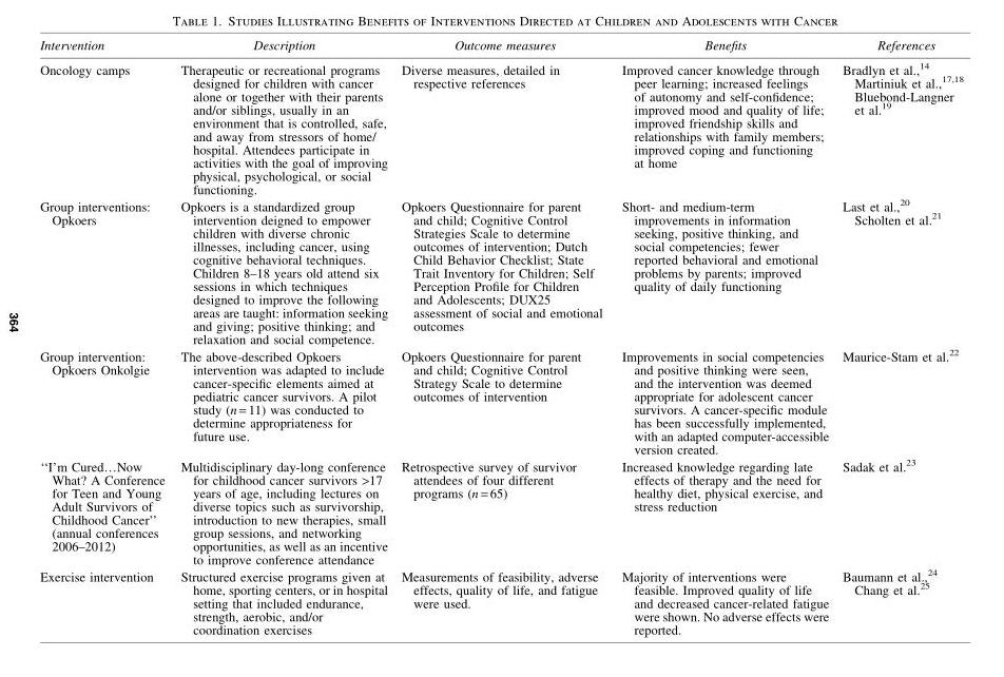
<table><thead><tr><td>Intervention</td><td>Description</td><td>Outcome measures</td><td>Benefits</td><td>References</td></tr></thead><tbody><tr><td>Oncology camps</td><td>Therapeutic or recreational programs designed for children with cancer alone or together with their parents and/or siblings, usually in an environment that is controlled, safe, and away from stressors of home/ hospital. Attendees participate in activities with the goal of improving physical, psychological, or social functioning.</td><td>Diverse measures, detailed in respective references</td><td>Improved cancer knowledge through peer learning; increased feelings of autonomy and self-confidence; improved mood and quality of life; improved friendship skills and relationships with family members; improved coping and functioning at home</td><td>Bradlyn et al.,<sup>14</sup> Martiniuk et al.,<sup>17,18</sup> Bluebond-Langner et al.<sup>19</sup></td></tr><tr><td>Group interventions: Opkoers</td><td>Opkoers is a standardized group intervention deigned to empower children with diverse chronic illnesses, including cancer, using cognitive behavioral techniques. Children 8–18 years old attend six sessions in which techniques designed to improve the following areas are taught: information seeking and giving; positive thinking; and relaxation and social competence.</td><td>Opkoers Questionnaire for parent and child; Cognitive Control Strategies Scale to determine outcomes of intervention; Dutch Child Behavior Checklist; State Trait Inventory for Children; Self Perception Profile for Children and Adolescents; DUX25 assessment of social and emotional outcomes</td><td>Short- and medium-term improvements in information seeking, positive thinking, and social competencies; fewer reported behavioral and emotional problems by parents; improved quality of daily functioning</td><td>Last et al.,<sup>20</sup> Scholten et al.<sup>21</sup></td></tr><tr><td>Group intervention: Opkoers Onkolgie</td><td>The above-described Opkoers intervention was adapted to include cancer-specific elements aimed at pediatric cancer survivors. A pilot study (n = 11) was conducted to determine appropriateness for future use.</td><td>Opkoers Questionnaire for parent and child; Cognitive Control Strategy Scale to determine outcomes of intervention</td><td>Improvements in social competencies and positive thinking were seen, and the intervention was deemed appropriate for adolescent cancer survivors. A cancer-specific module has been successfully implemented, with an adapted computer-accessible version created.</td><td>Maurice-Stam et al.<sup>22</sup></td></tr><tr><td>‘‘I’m Cured.Now What? A Conference for Teen and Young Adult Survivors of Childhood Cancer’’ (annual conferences 2006–2012)</td><td>Multidisciplinary day-long conference for childhood cancer survivors &gt;17 years of age, including lectures on diverse topics such as survivorship, introduction to new therapies, small group sessions, and networking opportunities, as well as an incentive to improve conference attendance</td><td>Retrospective survey of survivor attendees of four different programs (n = 65)</td><td>Increased knowledge regarding late effects of therapy and the need for healthy diet, physical exercise, and stress reduction</td><td>Sadak et al.<sup>23</sup></td></tr><tr><td>Exercise intervention</td><td>Structured exercise programs given at home, sporting centers, or in hospital setting that included endurance, strength, aerobic, and/or coordination exercises</td><td>Measurements of feasibility, adverse effects, quality of life, and fatigue were used.</td><td>Majority of interventions were feasible. Improved quality of life and decreased cancer-related fatigue were shown. No adverse effects were reported.</td><td>Baumann et al.,<sup>24</sup> Chang et al.<sup>25</sup></td></tr></tbody></table>